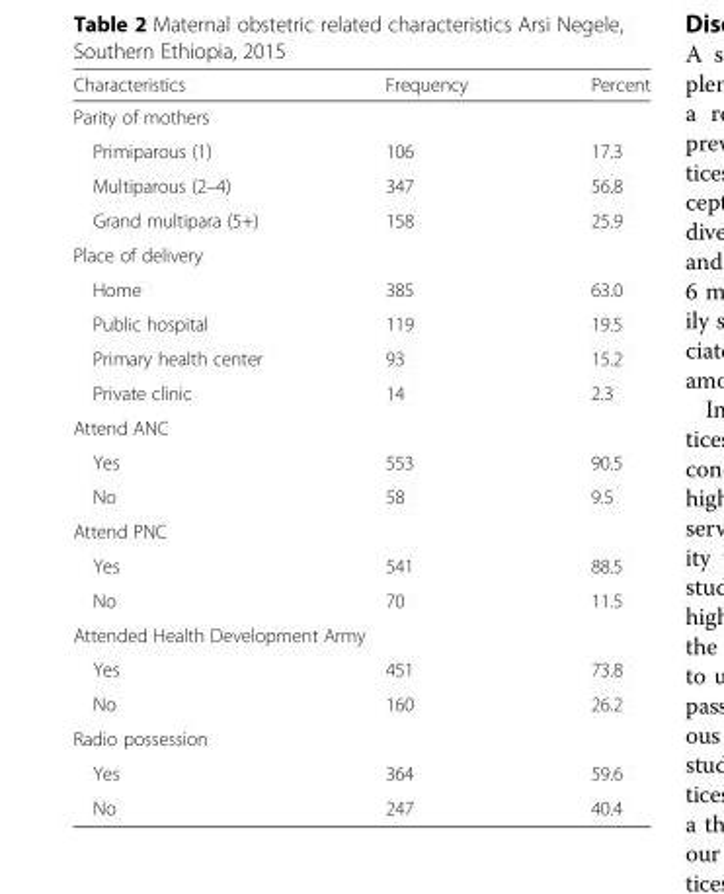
<table><thead><tr><td>Characteristics</td><td>Frequency</td><td>Percent</td></tr></thead><tbody><tr><td colspan="3">Parity of mothers</td></tr><tr><td>Primiparous (1)</td><td>106</td><td>17.3</td></tr><tr><td>Multiparous (2–4)</td><td>347</td><td>56.8</td></tr><tr><td>Grand multipara (5+)</td><td>158</td><td>25.9</td></tr><tr><td colspan="3">Place of delivery</td></tr><tr><td>Home</td><td>385</td><td>63.0</td></tr><tr><td>Public hospital</td><td>119</td><td>19.5</td></tr><tr><td>Primary health center</td><td>93</td><td>15.2</td></tr><tr><td>Private clinic</td><td>14</td><td>2.3</td></tr><tr><td colspan="3">Attend ANC</td></tr><tr><td>Yes</td><td>553</td><td>90.5</td></tr><tr><td>No</td><td>58</td><td>9.5</td></tr><tr><td colspan="3">Attend PNC</td></tr><tr><td>Yes</td><td>541</td><td>88.5</td></tr><tr><td>No</td><td>70</td><td>11.5</td></tr><tr><td colspan="3">Attended Health Development Army</td></tr><tr><td>Yes</td><td>451</td><td>73.8</td></tr><tr><td>No</td><td>160</td><td>26.2</td></tr><tr><td colspan="3">Radio possession</td></tr><tr><td>Yes</td><td>364</td><td>59.6</td></tr><tr><td>No</td><td>247</td><td>40.4</td></tr></tbody></table>